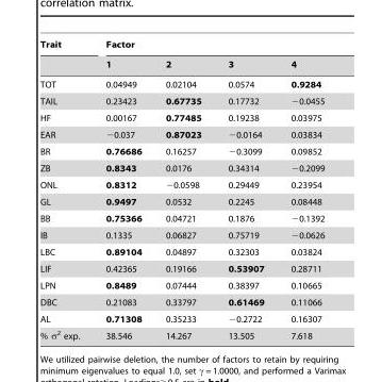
<table><thead><tr><td rowspan="2">Trait</td><td colspan="4">Factor</td></tr><tr><td>1</td><td>2</td><td>3</td><td>4</td></tr></thead><tbody><tr><td>TOT</td><td>0.04949</td><td>0.02104</td><td>0.0574</td><td>0.9284</td></tr><tr><td>TAIL</td><td>0.23423</td><td>0.67735</td><td>0.17732</td><td>−0.0455</td></tr><tr><td>HF</td><td>0.00167</td><td>0.77485</td><td>0.19238</td><td>0.03975</td></tr><tr><td>EAR</td><td>−0.037</td><td>0.87023</td><td>−0.0164</td><td>0.03834</td></tr><tr><td>BR</td><td>0.76686</td><td>0.16257</td><td>−0.3099</td><td>0.09852</td></tr><tr><td>ZB</td><td>0.8343</td><td>0.0176</td><td>0.34314</td><td>−0.2099</td></tr><tr><td>ONL</td><td>0.8312</td><td>−0.0598</td><td>0.29449</td><td>0.23954</td></tr><tr><td>GL</td><td>0.9497</td><td>0.0532</td><td>0.2245</td><td>0.08448</td></tr><tr><td>BB</td><td>0.75366</td><td>0.04721</td><td>0.1876</td><td>−0.1392</td></tr><tr><td>IB</td><td>0.1335</td><td>0.06827</td><td>0.75719</td><td>−0.0626</td></tr><tr><td>LBC</td><td>0.89104</td><td>0.04897</td><td>0.32303</td><td>0.03824</td></tr><tr><td>LIF</td><td>0.42365</td><td>0.19166</td><td>0.53907</td><td>0.28711</td></tr><tr><td>LPN</td><td>0.8489</td><td>0.07444</td><td>0.38397</td><td>0.10665</td></tr><tr><td>DBC</td><td>0.21083</td><td>0.33797</td><td>0.61469</td><td>0.11066</td></tr><tr><td>AL</td><td>0.71308</td><td>0.35233</td><td>−0.2722</td><td>0.16307</td></tr><tr><td>% σ<sup>2</sup> exp.</td><td>38.546</td><td>14.267</td><td>13.505</td><td>7.618</td></tr></tbody></table>